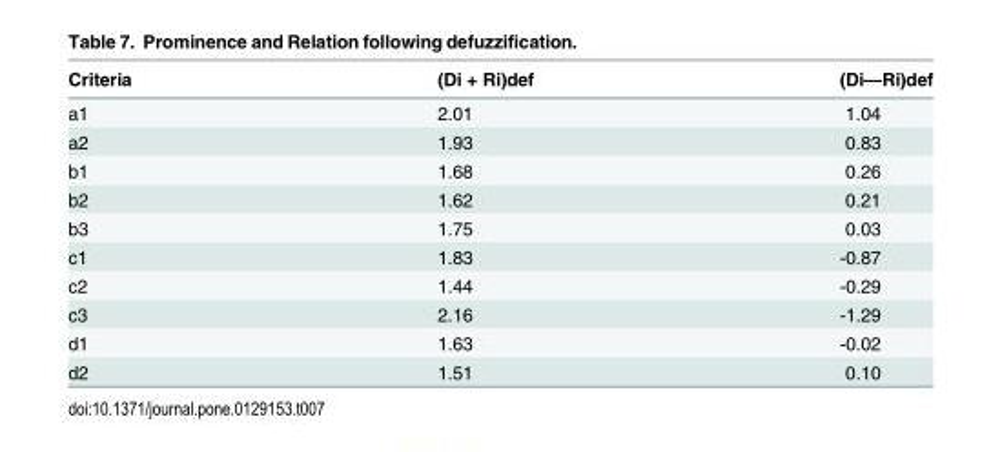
<table><thead><tr><td>Criteria</td><td>(Di + Ri)def</td><td>(Di—Ri)def</td></tr></thead><tbody><tr><td>a1</td><td>2.01</td><td>1.04</td></tr><tr><td>a2</td><td>1.93</td><td>0.83</td></tr><tr><td>b1</td><td>1.68</td><td>0.26</td></tr><tr><td>b2</td><td>1.62</td><td>0.21</td></tr><tr><td>b3</td><td>1.75</td><td>0.03</td></tr><tr><td>c1</td><td>1.83</td><td>-0.87</td></tr><tr><td>c2</td><td>1.44</td><td>-0.29</td></tr><tr><td>c3</td><td>2.16</td><td>-1.29</td></tr><tr><td>d1</td><td>1.63</td><td>-0.02</td></tr><tr><td>d2</td><td>1.51</td><td>0.10</td></tr></tbody></table>